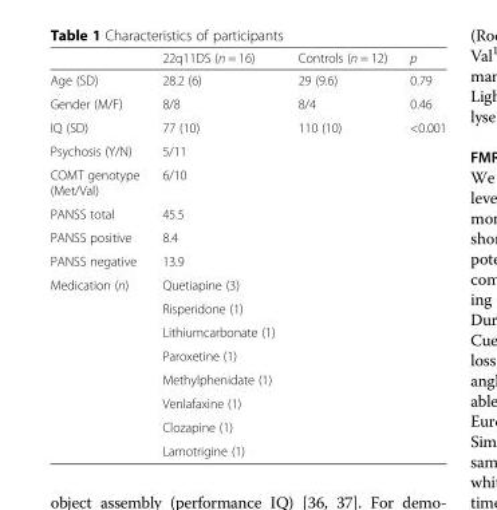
<table><thead><tr><td></td><td>22q11DS (n = 16)</td><td>Controls (n = 12)</td><td>p</td></tr></thead><tbody><tr><td>Age (SD)</td><td>28.2 (6)</td><td>29 (9.6)</td><td>0.79</td></tr><tr><td>Gender (M/F)</td><td>8/8</td><td>8/4</td><td>0.46</td></tr><tr><td>IQ (SD)</td><td>77 (10)</td><td rowspan="2">110 (10)</td><td rowspan="2">&lt;0.001</td></tr><tr><td>Psychosis (Y/N)</td><td>5/11</td></tr><tr><td>COMT genotype (Met/Val)</td><td>6/10</td><td></td><td></td></tr><tr><td>PANSS total</td><td>45.5</td><td></td><td></td></tr><tr><td>PANSS positive</td><td>8.4</td><td></td><td></td></tr><tr><td>PANSS negative</td><td>13.9</td><td rowspan="9"></td><td rowspan="9"></td></tr><tr><td rowspan="8">Medication (n)</td><td>Quetiapine (3)</td></tr><tr><td>Risperidone (1)</td></tr><tr><td>Lithiumcarbonate (1)</td></tr><tr><td>Paroxetine (1)</td></tr><tr><td>Methylphenidate (1)</td></tr><tr><td>Venlafaxine (1)</td></tr><tr><td>Clozapine (1)</td></tr><tr><td>Lamotrigine (1)</td></tr></tbody></table>